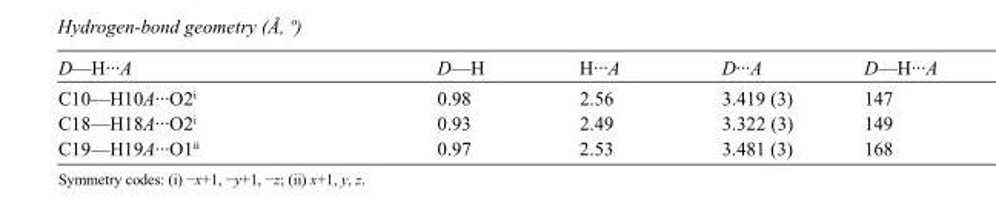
<table><tbody><tr><td>D—H···A</td><td>D—H</td><td>H···A</td><td>D···A</td><td>D—H···A</td></tr><tr><td>C10—H10A···O2<sup>i</sup></td><td>0.98</td><td>2.56</td><td>3.419 (3)</td><td>147</td></tr><tr><td>C18—H18A···O2<sup>i</sup></td><td>0.93</td><td>2.49</td><td>3.322 (3)</td><td>149</td></tr><tr><td>C19—H19A···O1<sup>ii</sup></td><td>0.97</td><td>2.53</td><td>3.481 (3)</td><td>168</td></tr></tbody></table>